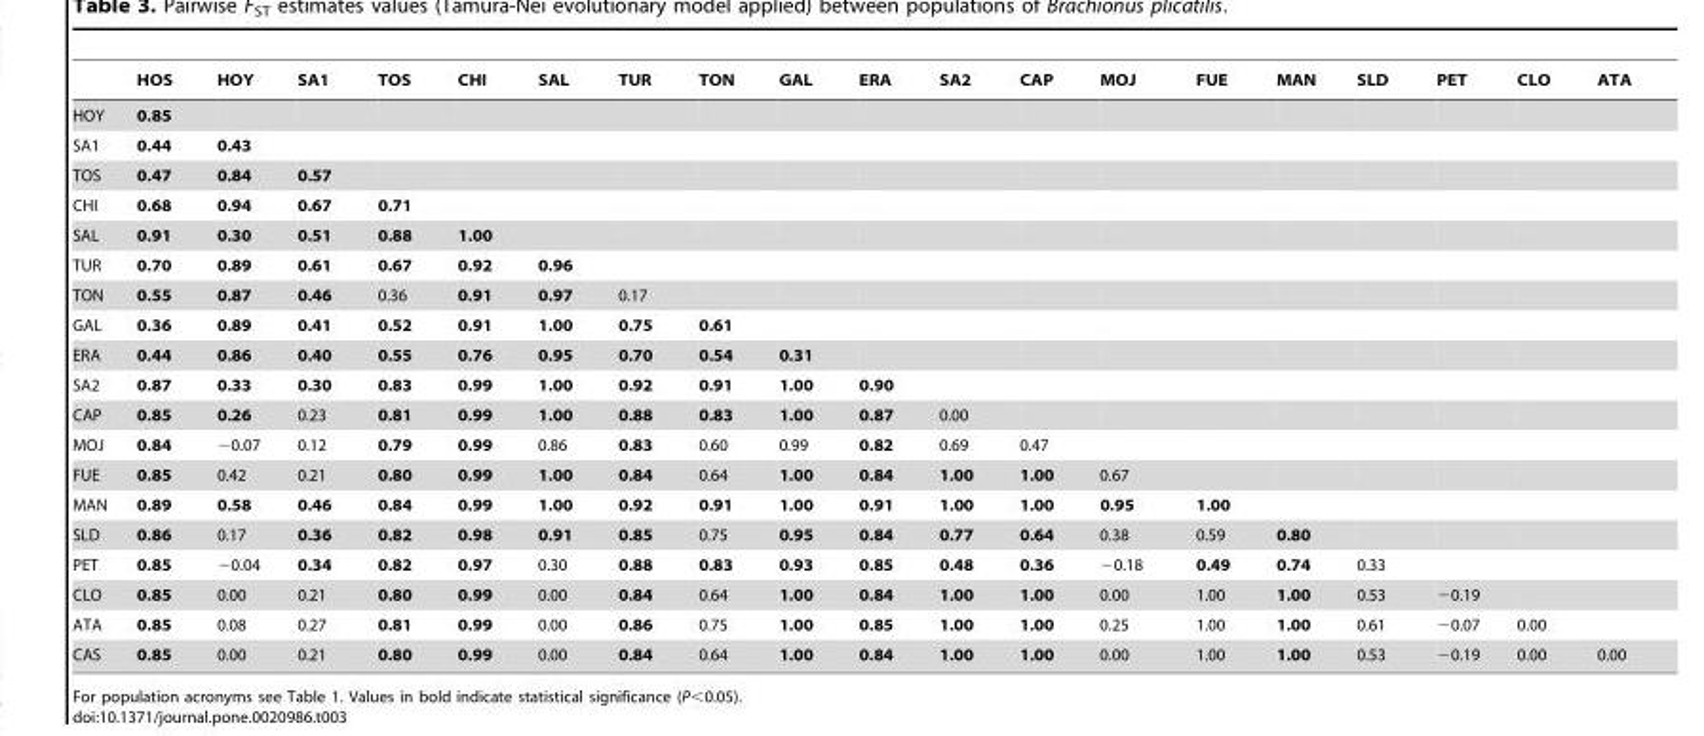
<table><thead><tr><td></td><td>HOS</td><td>HOY</td><td>SA1</td><td>TOS</td><td>CHI</td><td>SAL</td><td>TUR</td><td>TON</td><td>GAL</td><td>ERA</td><td>SA2</td><td>CAP</td><td>MOJ</td><td>FUE</td><td>MAN</td><td>SLD</td><td>PET</td><td>CLO</td><td>ATA</td></tr></thead><tbody><tr><td>HOY</td><td>0.85</td><td></td><td></td><td></td><td></td><td></td><td></td><td></td><td></td><td></td><td></td><td></td><td></td><td></td><td></td><td></td><td></td><td></td><td></td></tr><tr><td>SA1</td><td>0.44</td><td>0.43</td><td></td><td></td><td></td><td></td><td></td><td></td><td></td><td></td><td></td><td></td><td></td><td></td><td></td><td></td><td></td><td></td><td></td></tr><tr><td>TOS</td><td>0.47</td><td>0.84</td><td>0.57</td><td></td><td></td><td></td><td></td><td></td><td></td><td></td><td></td><td></td><td></td><td></td><td></td><td></td><td></td><td></td><td></td></tr><tr><td>CHI</td><td>0.68</td><td>0.94</td><td>0.67</td><td>0.71</td><td></td><td></td><td></td><td></td><td></td><td></td><td></td><td></td><td></td><td></td><td></td><td></td><td></td><td></td><td></td></tr><tr><td>SAL</td><td>0.91</td><td>0.30</td><td>0.51</td><td>0.88</td><td>1.00</td><td></td><td></td><td></td><td></td><td></td><td></td><td></td><td></td><td></td><td></td><td></td><td></td><td></td><td></td></tr><tr><td>TUR</td><td>0.70</td><td>0.89</td><td>0.61</td><td>0.67</td><td>0.92</td><td>0.96</td><td></td><td></td><td></td><td></td><td></td><td></td><td></td><td></td><td></td><td></td><td></td><td></td><td></td></tr><tr><td>TON</td><td>0.55</td><td>0.87</td><td>0.46</td><td>0.36</td><td>0.91</td><td>0.97</td><td>0.17</td><td></td><td></td><td></td><td></td><td></td><td></td><td></td><td></td><td></td><td></td><td></td><td></td></tr><tr><td>GAL</td><td>0.36</td><td>0.89</td><td>0.41</td><td>0.52</td><td>0.91</td><td>1.00</td><td>0.75</td><td>0.61</td><td></td><td></td><td></td><td></td><td></td><td></td><td></td><td></td><td></td><td></td><td></td></tr><tr><td>ERA</td><td>0.44</td><td>0.86</td><td>0.40</td><td>0.55</td><td>0.76</td><td>0.95</td><td>0.70</td><td>0.54</td><td>0.31</td><td></td><td></td><td></td><td></td><td></td><td></td><td></td><td></td><td></td><td></td></tr><tr><td>SA2</td><td>0.87</td><td>0.33</td><td>0.30</td><td>0.83</td><td>0.99</td><td>1.00</td><td>0.92</td><td>0.91</td><td>1.00</td><td>0.90</td><td></td><td></td><td></td><td></td><td></td><td></td><td></td><td></td><td></td></tr><tr><td>CAP</td><td>0.85</td><td>0.26</td><td>0.23</td><td>0.81</td><td>0.99</td><td>1.00</td><td>0.88</td><td>0.83</td><td>1.00</td><td>0.87</td><td>0.00</td><td></td><td></td><td></td><td></td><td></td><td></td><td></td><td></td></tr><tr><td>MOJ</td><td>0.84</td><td>−0.07</td><td>0.12</td><td>0.79</td><td>0.99</td><td>0.86</td><td>0.83</td><td>0.60</td><td>0.99</td><td>0.82</td><td>0.69</td><td>0.47</td><td></td><td></td><td></td><td></td><td></td><td></td><td></td></tr><tr><td>FUE</td><td>0.85</td><td>0.42</td><td>0.21</td><td>0.80</td><td>0.99</td><td>1.00</td><td>0.84</td><td>0.64</td><td>1.00</td><td>0.84</td><td>1.00</td><td>1.00</td><td>0.67</td><td></td><td></td><td></td><td></td><td></td><td></td></tr><tr><td>MAN</td><td>0.89</td><td>0.58</td><td>0.46</td><td>0.84</td><td>0.99</td><td>1.00</td><td>0.92</td><td>0.91</td><td>1.00</td><td>0.91</td><td>1.00</td><td>1.00</td><td>0.95</td><td>1.00</td><td></td><td></td><td></td><td></td><td></td></tr><tr><td>SLD</td><td>0.86</td><td>0.17</td><td>0.36</td><td>0.82</td><td>0.98</td><td>0.91</td><td>0.85</td><td>0.75</td><td>0.95</td><td>0.84</td><td>0.77</td><td>0.64</td><td>0.38</td><td>0.59</td><td>0.80</td><td></td><td></td><td></td><td></td></tr><tr><td>PET</td><td>0.85</td><td>−0.04</td><td>0.34</td><td>0.82</td><td>0.97</td><td>0.30</td><td>0.88</td><td>0.83</td><td>0.93</td><td>0.85</td><td>0.48</td><td>0.36</td><td>−0.18</td><td>0.49</td><td>0.74</td><td>0.33</td><td></td><td></td><td></td></tr><tr><td>CLO</td><td>0.85</td><td>0.00</td><td>0.21</td><td>0.80</td><td>0.99</td><td>0.00</td><td>0.84</td><td>0.64</td><td>1.00</td><td>0.84</td><td>1.00</td><td>1.00</td><td>0.00</td><td>1.00</td><td>1.00</td><td>0.53</td><td>−0.19</td><td></td><td></td></tr><tr><td>ATA</td><td>0.85</td><td>0.08</td><td>0.27</td><td>0.81</td><td>0.99</td><td>0.00</td><td>0.86</td><td>0.75</td><td>1.00</td><td>0.85</td><td>1.00</td><td>1.00</td><td>0.25</td><td>1.00</td><td>1.00</td><td>0.61</td><td>−0.07</td><td>0.00</td><td></td></tr><tr><td>CAS</td><td>0.85</td><td>0.00</td><td>0.21</td><td>0.80</td><td>0.99</td><td>0.00</td><td>0.84</td><td>0.64</td><td>1.00</td><td>0.84</td><td>1.00</td><td>1.00</td><td>0.00</td><td>1.00</td><td>1.00</td><td>0.53</td><td>−0.19</td><td>0.00</td><td>0.00</td></tr></tbody></table>